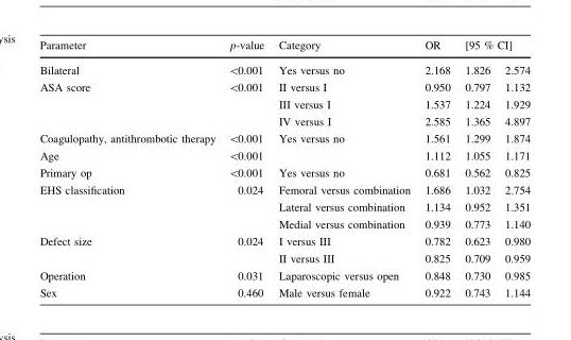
<table><thead><tr><td rowspan="2">Parameter Bilateral</td><td rowspan="2">p-value &lt;0.001</td><td rowspan="2">Category Yes versus no</td><td rowspan="2">OR 2.168</td><td colspan="2">[95 % CI]</td></tr><tr><td>1.826</td><td>2.574</td></tr></thead><tbody><tr><td rowspan="3">ASA score</td><td rowspan="3">&lt;0.001</td><td>II versus I</td><td>0.950</td><td>0.797</td><td>1.132</td></tr><tr><td>III versus I</td><td>1.537</td><td>1.224</td><td>1.929</td></tr><tr><td>IV versus I</td><td>2.585</td><td>1.365</td><td>4.897</td></tr><tr><td>Coagulopathy, antithrombotic therapy</td><td>&lt;0.001</td><td>Yes versus no</td><td>1.561</td><td>1.299</td><td>1.874</td></tr><tr><td>Age</td><td>&lt;0.001</td><td></td><td>1.112</td><td>1.055</td><td>1.171</td></tr><tr><td>Primary op</td><td>&lt;0.001</td><td>Yes versus no</td><td>0.681</td><td>0.562</td><td>0.825</td></tr><tr><td rowspan="3">EHS classification</td><td rowspan="3">0.024</td><td>Femoral versus combination</td><td>1.686</td><td>1.032</td><td>2.754</td></tr><tr><td>Lateral versus combination</td><td>1.134</td><td>0.952</td><td>1.351</td></tr><tr><td>Medial versus combination</td><td>0.939</td><td>0.773</td><td>1.140</td></tr><tr><td rowspan="2">Defect size</td><td rowspan="2">0.024</td><td>I versus III</td><td>0.782</td><td>0.623</td><td>0.980</td></tr><tr><td>II versus III</td><td>0.825</td><td>0.709</td><td>0.959</td></tr><tr><td>Operation</td><td>0.031</td><td>Laparoscopic versus open</td><td>0.848</td><td>0.730</td><td>0.985</td></tr><tr><td>Sex</td><td>0.460</td><td>Male versus female</td><td>0.922</td><td>0.743</td><td>1.144</td></tr></tbody></table>